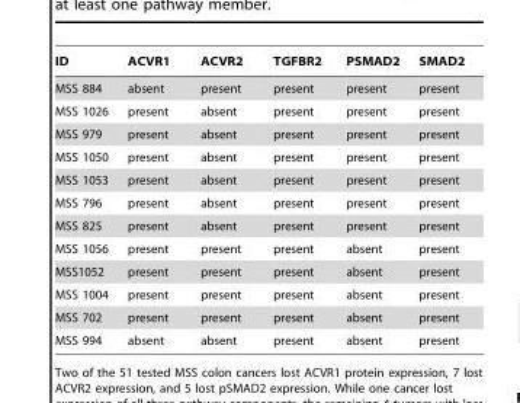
<table><thead><tr><td>ID</td><td>ACVR1</td><td>ACVR2</td><td>TGFBR2</td><td>PSMAD2</td><td>SMAD2</td></tr></thead><tbody><tr><td>MSS 884</td><td>absent</td><td>present</td><td>present</td><td>present</td><td>present</td></tr><tr><td>MSS 1026</td><td>present</td><td>absent</td><td>present</td><td>present</td><td>present</td></tr><tr><td>MSS 979</td><td>present</td><td>absent</td><td>present</td><td>present</td><td>present</td></tr><tr><td>MSS 1050</td><td>present</td><td>absent</td><td>present</td><td>present</td><td>present</td></tr><tr><td>MSS 1053</td><td>present</td><td>absent</td><td>present</td><td>present</td><td>present</td></tr><tr><td>MSS 796</td><td>present</td><td>absent</td><td>present</td><td>present</td><td>present</td></tr><tr><td>MSS 825</td><td>present</td><td>absent</td><td>present</td><td>present</td><td>present</td></tr><tr><td>MSS 1056</td><td>present</td><td>present</td><td>present</td><td>absent</td><td>present</td></tr><tr><td>MSS1052</td><td>present</td><td>present</td><td>present</td><td>absent</td><td>present</td></tr><tr><td>MSS 1004</td><td>present</td><td>present</td><td>present</td><td>absent</td><td>present</td></tr><tr><td>MSS 702</td><td>present</td><td>present</td><td>present</td><td>absent</td><td>present</td></tr><tr><td>MSS 994</td><td>absent</td><td>absent</td><td>present</td><td>absent</td><td>present</td></tr></tbody></table>